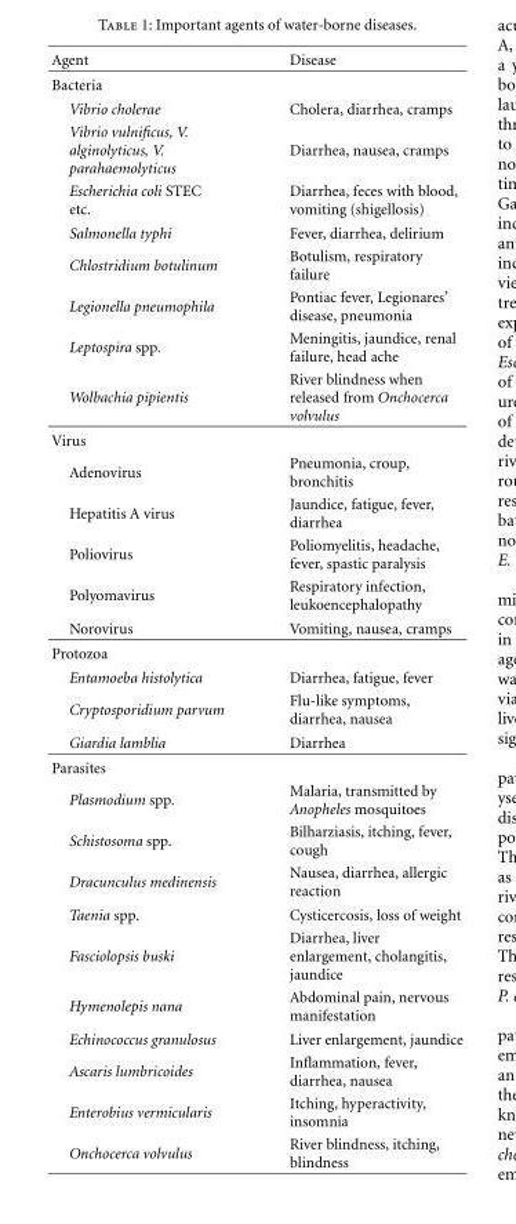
<table><thead><tr><td>Agent</td><td>Disease</td></tr></thead><tbody><tr><td colspan="2">Bacteria</td></tr><tr><td>Vibrio cholerae</td><td>Cholera, diarrhea, cramps</td></tr><tr><td>Vibrio vulnificus, V. alginolyticus, V. parahaemolyticus</td><td>Diarrhea, nausea, cramps</td></tr><tr><td>Escherichia coli STEC etc.</td><td>Diarrhea, feces with blood, vomiting (shigellosis)</td></tr><tr><td>Salmonella typhi</td><td>Fever, diarrhea, delirium</td></tr><tr><td>Chlostridium botulinum</td><td>Botulism, respiratory failure</td></tr><tr><td>Legionella pneumophila</td><td>Pontiac fever, Legionares’ disease, pneumonia</td></tr><tr><td>Leptospira spp.</td><td>Meningitis, jaundice, renal failure, head ache</td></tr><tr><td>Wolbachia pipientis</td><td>River blindness when released from Onchocerca volvulus</td></tr><tr><td colspan="2">Virus</td></tr><tr><td>Adenovirus</td><td>Pneumonia, croup, bronchitis</td></tr><tr><td>Hepatitis A virus</td><td>Jaundice, fatigue, fever, diarrhea</td></tr><tr><td>Poliovirus</td><td>Poliomyelitis, headache, fever, spastic paralysis</td></tr><tr><td>Polyomavirus</td><td>Respiratory infection, leukoencephalopathy</td></tr><tr><td>Norovirus</td><td>Vomiting, nausea, cramps</td></tr><tr><td colspan="2">Protozoa</td></tr><tr><td>Entamoeba histolytica</td><td>Diarrhea, fatigue, fever</td></tr><tr><td>Cryptosporidium parvum</td><td>Flu-like symptoms, diarrhea, nausea</td></tr><tr><td>Giardia lamblia</td><td>Diarrhea</td></tr><tr><td colspan="2">Parasites</td></tr><tr><td>Plasmodium spp.</td><td>Malaria, transmitted by Anopheles mosquitoes</td></tr><tr><td>Schistosoma spp.</td><td>Bilharziasis, itching, fever, cough</td></tr><tr><td>Dracunculus medinensis</td><td>Nausea, diarrhea, allergic reaction</td></tr><tr><td>Taenia spp.</td><td>Cysticercosis, loss of weight</td></tr><tr><td>Fasciolopsis buski</td><td>Diarrhea, liver enlargement, cholangitis, jaundice</td></tr><tr><td>Hymenolepis nana</td><td>Abdominal pain, nervous manifestation</td></tr><tr><td>Echinococcus granulosus</td><td>Liver enlargement, jaundice</td></tr><tr><td>Ascaris lumbricoides</td><td>Inflammation, fever, diarrhea, nausea</td></tr><tr><td>Enterobius vermicularis</td><td>Itching, hyperactivity, insomnia</td></tr><tr><td>Onchocerca volvulus</td><td>River blindness, itching, blindness</td></tr></tbody></table>